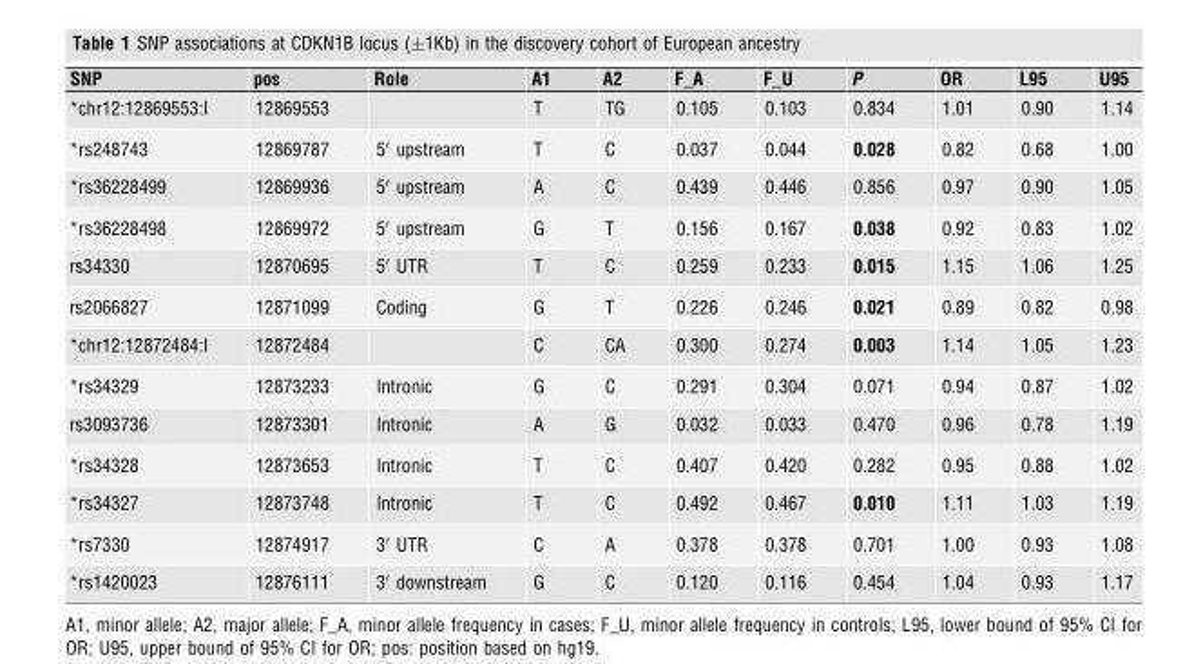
<table><thead><tr><td>SNP</td><td>pos</td><td>Role</td><td>A1</td><td>A2</td><td>F_A</td><td>F_U</td><td>P</td><td>OR</td><td>L95</td><td>U95</td></tr></thead><tbody><tr><td>*chr12:12869553:I</td><td>12869553</td><td></td><td>T</td><td>TG</td><td>0.105</td><td>0.103</td><td>0.834</td><td>1.01</td><td>0.90</td><td>1.14</td></tr><tr><td>*rs248743</td><td>12869787</td><td>5′ upstream</td><td>T</td><td>C</td><td>0.037</td><td>0.044</td><td>0.028</td><td>0.82</td><td>0.68</td><td>1.00</td></tr><tr><td>*rs36228499</td><td>12869936</td><td>5′ upstream</td><td>A</td><td>C</td><td>0.439</td><td>0.446</td><td>0.856</td><td>0.97</td><td>0.90</td><td>1.05</td></tr><tr><td>*rs36228498</td><td>12869972</td><td>5′ upstream</td><td>G</td><td>T</td><td>0.156</td><td>0.167</td><td>0.038</td><td>0.92</td><td>0.83</td><td>1.02</td></tr><tr><td>rs34330</td><td>12870695</td><td>5′ UTR</td><td>T</td><td>C</td><td>0.259</td><td>0.233</td><td>0.015</td><td>1.15</td><td>1.06</td><td>1.25</td></tr><tr><td>rs2066827</td><td>12871099</td><td>Coding</td><td>G</td><td>T</td><td>0.226</td><td>0.246</td><td>0.021</td><td>0.89</td><td>0.82</td><td>0.98</td></tr><tr><td>*chr12:12872484:I</td><td>12872484</td><td></td><td>C</td><td>CA</td><td>0.300</td><td>0.274</td><td>0.003</td><td>1.14</td><td>1.05</td><td>1.23</td></tr><tr><td>*rs34329</td><td>12873233</td><td>Intronic</td><td>G</td><td>C</td><td>0.291</td><td>0.304</td><td>0.071</td><td>0.94</td><td>0.87</td><td>1.02</td></tr><tr><td>rs3093736</td><td>12873301</td><td>Intronic</td><td>A</td><td>G</td><td>0.032</td><td>0.033</td><td>0.470</td><td>0.96</td><td>0.78</td><td>1.19</td></tr><tr><td>*rs34328</td><td>12873653</td><td>Intronic</td><td>T</td><td>C</td><td>0.407</td><td>0.420</td><td>0.282</td><td>0.95</td><td>0.88</td><td>1.02</td></tr><tr><td>*rs34327</td><td>12873748</td><td>Intronic</td><td>T</td><td>C</td><td>0.492</td><td>0.467</td><td>0.010</td><td>1.11</td><td>1.03</td><td>1.19</td></tr><tr><td>*rs7330</td><td>12874917</td><td>3′ UTR</td><td>C</td><td>A</td><td>0.378</td><td>0.378</td><td>0.701</td><td>1.00</td><td>0.93</td><td>1.08</td></tr><tr><td>*rs1420023</td><td>12876111</td><td>3′ downstream</td><td>G</td><td>C</td><td>0.120</td><td>0.116</td><td>0.454</td><td>1.04</td><td>0.93</td><td>1.17</td></tr></tbody></table>